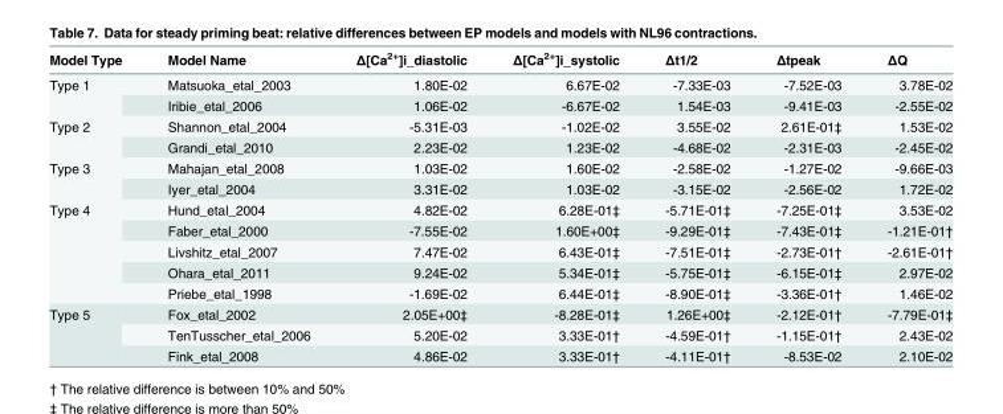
<table><thead><tr><td>Model Type</td><td>Model Name</td><td>Δ[Ca<sup>2+</sup>]i_diastolic</td><td>Δ[Ca<sup>2+</sup>]i_systolic</td><td>Δt1/2</td><td>Δtpeak</td><td>ΔQ</td></tr></thead><tbody><tr><td rowspan="2">Type 1</td><td>Matsuoka_etal_2003</td><td>1.80E-02</td><td>6.67E-02</td><td>-7.33E-03</td><td>-7.52E-03</td><td>3.78E-02</td></tr><tr><td>Iribie_etal_2006</td><td>1.06E-02</td><td>-6.67E-02</td><td>1.54E-03</td><td>-9.41E-03</td><td>-2.55E-02</td></tr><tr><td rowspan="2">Type 2</td><td>Shannon_etal_2004</td><td>-5.31E-03</td><td>-1.02E-02</td><td>3.55E-02</td><td>2.61E-01‡</td><td>1.53E-02</td></tr><tr><td>Grandi_etal_2010</td><td>2.23E-02</td><td>1.23E-02</td><td>-4.68E-02</td><td>-2.31E-03</td><td>-2.45E-02</td></tr><tr><td rowspan="2">Type 3</td><td>Mahajan_etal_2008</td><td>1.03E-02</td><td>1.60E-02</td><td>-2.58E-02</td><td>-1.27E-02</td><td>-9.66E-03</td></tr><tr><td>Iyer_etal_2004</td><td>3.31E-02</td><td>1.03E-02</td><td>-3.15E-02</td><td>-2.56E-02</td><td>1.72E-02</td></tr><tr><td rowspan="5">Type 4</td><td>Hund_etal_2004</td><td>4.82E-02</td><td>6.28E-01‡</td><td>-5.71E-01‡</td><td>-7.25E-01‡</td><td>3.53E-02</td></tr><tr><td>Faber_etal_2000</td><td>-7.55E-02</td><td>1.60E+00‡</td><td>-9.29E-01‡</td><td>-7.43E-01‡</td><td>-1.21E-01†</td></tr><tr><td>Livshitz_etal_2007</td><td>7.47E-02</td><td>6.43E-01‡</td><td>-7.51E-01‡</td><td>-2.73E-01†</td><td>-2.61E-01†</td></tr><tr><td>Ohara_etal_2011</td><td>9.24E-02</td><td>5.34E-01‡</td><td>-5.75E-01‡</td><td>-6.15E-01‡</td><td>2.97E-02</td></tr><tr><td>Priebe_etal_1998</td><td>-1.69E-02</td><td>6.44E-01‡</td><td>-8.90E-01‡</td><td>-3.36E-01†</td><td>1.46E-02</td></tr><tr><td rowspan="3">Type 5</td><td>Fox_etal_2002</td><td>2.05E+00‡</td><td>-8.28E-01‡</td><td>1.26E+00‡</td><td>-2.12E-01†</td><td>-7.79E-01‡</td></tr><tr><td>TenTusscher_etal_2006</td><td>5.20E-02</td><td>3.33E-01†</td><td>-4.59E-01†</td><td>-1.15E-01†</td><td>2.43E-02</td></tr><tr><td>Fink_etal_2008</td><td>4.86E-02</td><td>3.33E-01†</td><td>-4.11E-01†</td><td>-8.53E-02</td><td>2.10E-02</td></tr></tbody></table>